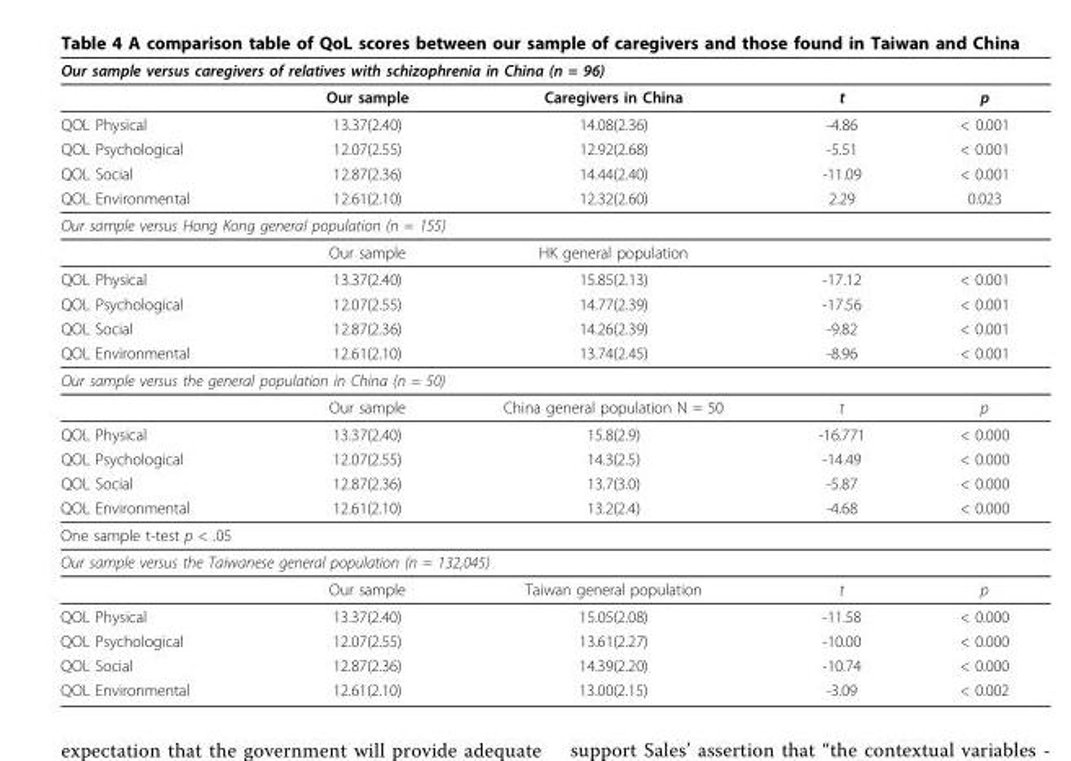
<table><thead><tr><td colspan="5">Our sample versus caregivers of relatives with schizophrenia in China (n = 96)</td></tr><tr><td></td><td>Our sample</td><td>Caregivers in China</td><td>t</td><td>p</td></tr></thead><tbody><tr><td>QOL Physical</td><td>13.37(2.40)</td><td>14.08(2.36)</td><td>-4.86</td><td>&lt; 0.001</td></tr><tr><td>QOL Psychological</td><td>12.07(2.55)</td><td>12.92(2.68)</td><td>-5.51</td><td>&lt; 0.001</td></tr><tr><td>QOL Social</td><td>12.87(2.36)</td><td>14.44(2.40)</td><td>-11.09</td><td>&lt; 0.001</td></tr><tr><td>QOL Environmental</td><td>12.61(2.10)</td><td>12.32(2.60)</td><td>2.29</td><td>0.023</td></tr><tr><td colspan="5">Our sample versus Hong Kong general population (n = 155)</td></tr><tr><td></td><td>Our sample</td><td>HK general population</td><td></td><td></td></tr><tr><td>QOL Physical</td><td>13.37(2.40)</td><td>15.85(2.13)</td><td>-17.12</td><td>&lt; 0.001</td></tr><tr><td>QOL Psychological</td><td>12.07(2.55)</td><td>14.77(2.39)</td><td>-17.56</td><td>&lt; 0.001</td></tr><tr><td>QOL Social</td><td>12.87(2.36)</td><td>14.26(2.39)</td><td>-9.82</td><td>&lt; 0.001</td></tr><tr><td>QOL Environmental</td><td>12.61(2.10)</td><td>13.74(2.45)</td><td>-8.96</td><td>&lt; 0.001</td></tr><tr><td colspan="5">Our sample versus the general population in China (n = 50)</td></tr><tr><td></td><td>Our sample</td><td>China general population N = 50</td><td>t</td><td>p</td></tr><tr><td>QOL Physical</td><td>13.37(2.40)</td><td>15.8(2.9)</td><td>-16.771</td><td>&lt; 0.000</td></tr><tr><td>QOL Psychological</td><td>12.07(2.55)</td><td>14.3(2.5)</td><td>-14.49</td><td>&lt; 0.000</td></tr><tr><td>QOL Social</td><td>12.87(2.36)</td><td>13.7(3.0)</td><td>-5.87</td><td>&lt; 0.000</td></tr><tr><td>QOL Environmental</td><td>12.61(2.10)</td><td>13.2(2.4)</td><td>-4.68</td><td>&lt; 0.000</td></tr><tr><td colspan="5">One sample t-test p &lt; .05</td></tr><tr><td colspan="5">Our sample versus the Taiwanese general population (n = 132,045)</td></tr><tr><td></td><td>Our sample</td><td>Taiwan general population</td><td>t</td><td>p</td></tr><tr><td>QOL Physical</td><td>13.37(2.40)</td><td>15.05(2.08)</td><td>-11.58</td><td>&lt; 0.000</td></tr><tr><td>QOL Psychological</td><td>12.07(2.55)</td><td>13.61(2.27)</td><td>-10.00</td><td>&lt; 0.000</td></tr><tr><td>QOL Social</td><td>12.87(2.36)</td><td>14.39(2.20)</td><td>-10.74</td><td>&lt; 0.000</td></tr><tr><td>QOL Environmental</td><td>12.61(2.10)</td><td>13.00(2.15)</td><td>-3.09</td><td>&lt; 0.002</td></tr></tbody></table>